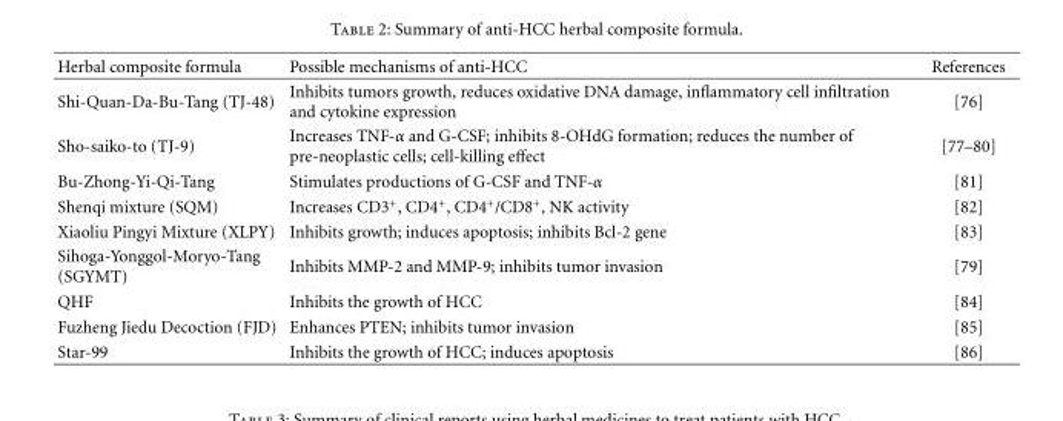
<table><thead><tr><td>Herbal composite formula</td><td>Possible mechanisms of anti-HCC</td><td>References</td></tr></thead><tbody><tr><td>Shi-Quan-Da-Bu-Tang (TJ-48)</td><td>Inhibits tumors growth, reduces oxidative DNA damage, inflammatory cell infiltration and cytokine expression</td><td>[76]</td></tr><tr><td>Sho-saiko-to (TJ-9)</td><td>Increases TNF-α and G-CSF; inhibits 8-OHdG formation; reduces the number of pre-neoplastic cells; cell-killing effect</td><td>[77–80]</td></tr><tr><td>Bu-Zhong-Yi-Qi-Tang</td><td>Stimulates productions of G-CSF and TNF-α</td><td>[81]</td></tr><tr><td>Shenqi mixture (SQM)</td><td>Increases CD3<sup>+</sup>, CD4<sup>+</sup>, CD4<sup>+</sup>/CD8<sup>+</sup>, NK activity</td><td>[82]</td></tr><tr><td>Xiaoliu Pingyi Mixture (XLPY)</td><td>Inhibits growth; induces apoptosis; inhibits Bcl-2 gene</td><td>[83]</td></tr><tr><td>Sihoga-Yonggol-Moryo-Tang (SGYMT)</td><td>Inhibits MMP-2 and MMP-9; inhibits tumor invasion</td><td>[79]</td></tr><tr><td>QHF</td><td>Inhibits the growth of HCC</td><td>[84]</td></tr><tr><td>Fuzheng Jiedu Decoction (FJD)</td><td>Enhances PTEN; inhibits tumor invasion</td><td>[85]</td></tr><tr><td>Star-99</td><td>Inhibits the growth of HCC; induces apoptosis</td><td>[86]</td></tr></tbody></table>